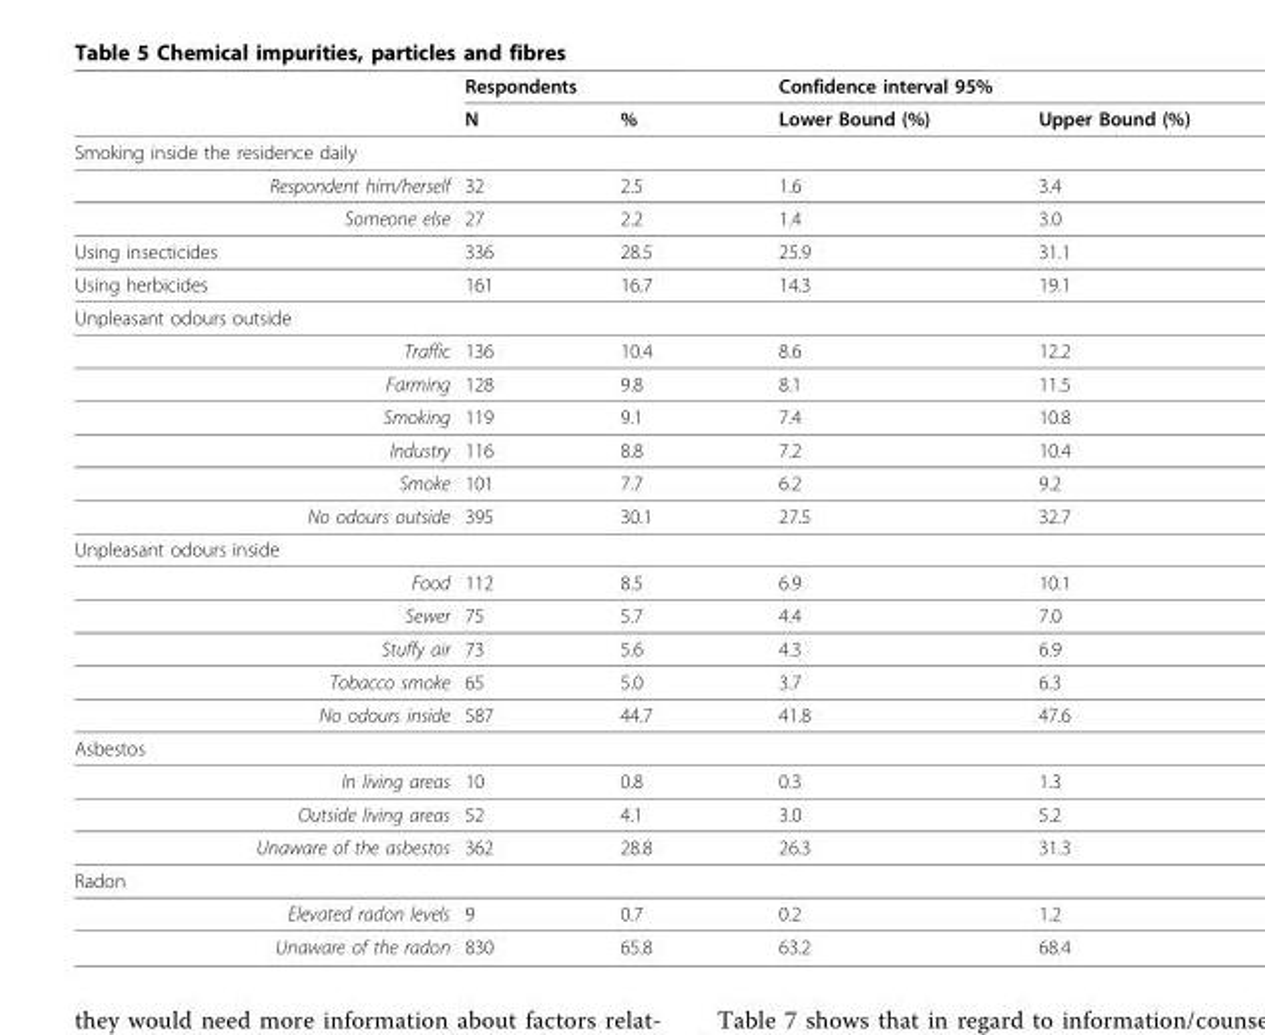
<table><thead><tr><td rowspan="2"></td><td colspan="2">Respondents</td><td colspan="2">Confidence interval 95%</td></tr><tr><td>N</td><td>%</td><td>Lower Bound (%)</td><td>Upper Bound (%)</td></tr></thead><tbody><tr><td colspan="5">Smoking inside the residence daily</td></tr><tr><td>Respondent him/herself</td><td>32</td><td>2.5</td><td>1.6</td><td>3.4</td></tr><tr><td>Someone else</td><td>27</td><td>2.2</td><td>1.4</td><td>3.0</td></tr><tr><td>Using insecticides</td><td>336</td><td>28.5</td><td>25.9</td><td>31.1</td></tr><tr><td>Using herbicides</td><td>161</td><td>16.7</td><td>14.3</td><td>19.1</td></tr><tr><td colspan="5">Unpleasant odours outside</td></tr><tr><td>Traffic</td><td>136</td><td>10.4</td><td>8.6</td><td>12.2</td></tr><tr><td>Farming</td><td>128</td><td>9.8</td><td>8.1</td><td>11.5</td></tr><tr><td>Smoking</td><td>119</td><td>9.1</td><td>7.4</td><td>10.8</td></tr><tr><td>Industry</td><td>116</td><td>8.8</td><td>7.2</td><td>10.4</td></tr><tr><td>Smoke</td><td>101</td><td>7.7</td><td>6.2</td><td>9.2</td></tr><tr><td>No odours outside</td><td>395</td><td>30.1</td><td>27.5</td><td>32.7</td></tr><tr><td colspan="5">Unpleasant odours inside</td></tr><tr><td>Food</td><td>112</td><td>8.5</td><td>6.9</td><td>10.1</td></tr><tr><td>Sewer</td><td>75</td><td>5.7</td><td>4.4</td><td>7.0</td></tr><tr><td>Stuffy air</td><td>73</td><td>5.6</td><td>4.3</td><td>6.9</td></tr><tr><td>Tobacco smoke</td><td>65</td><td>5.0</td><td>3.7</td><td>6.3</td></tr><tr><td>No odours inside</td><td>587</td><td>44.7</td><td>41.8</td><td>47.6</td></tr><tr><td colspan="5">Asbestos</td></tr><tr><td>In living areas</td><td>10</td><td>0.8</td><td>0.3</td><td>1.3</td></tr><tr><td>Outside living areas</td><td>52</td><td>4.1</td><td>3.0</td><td>5.2</td></tr><tr><td>Unaware of the asbestos</td><td>362</td><td>28.8</td><td>26.3</td><td>31.3</td></tr><tr><td colspan="5">Radon</td></tr><tr><td>Elevated radon levels</td><td>9</td><td>0.7</td><td>0.2</td><td>1.2</td></tr><tr><td>Unaware of the radon</td><td>830</td><td>65.8</td><td>63.2</td><td>68.4</td></tr></tbody></table>